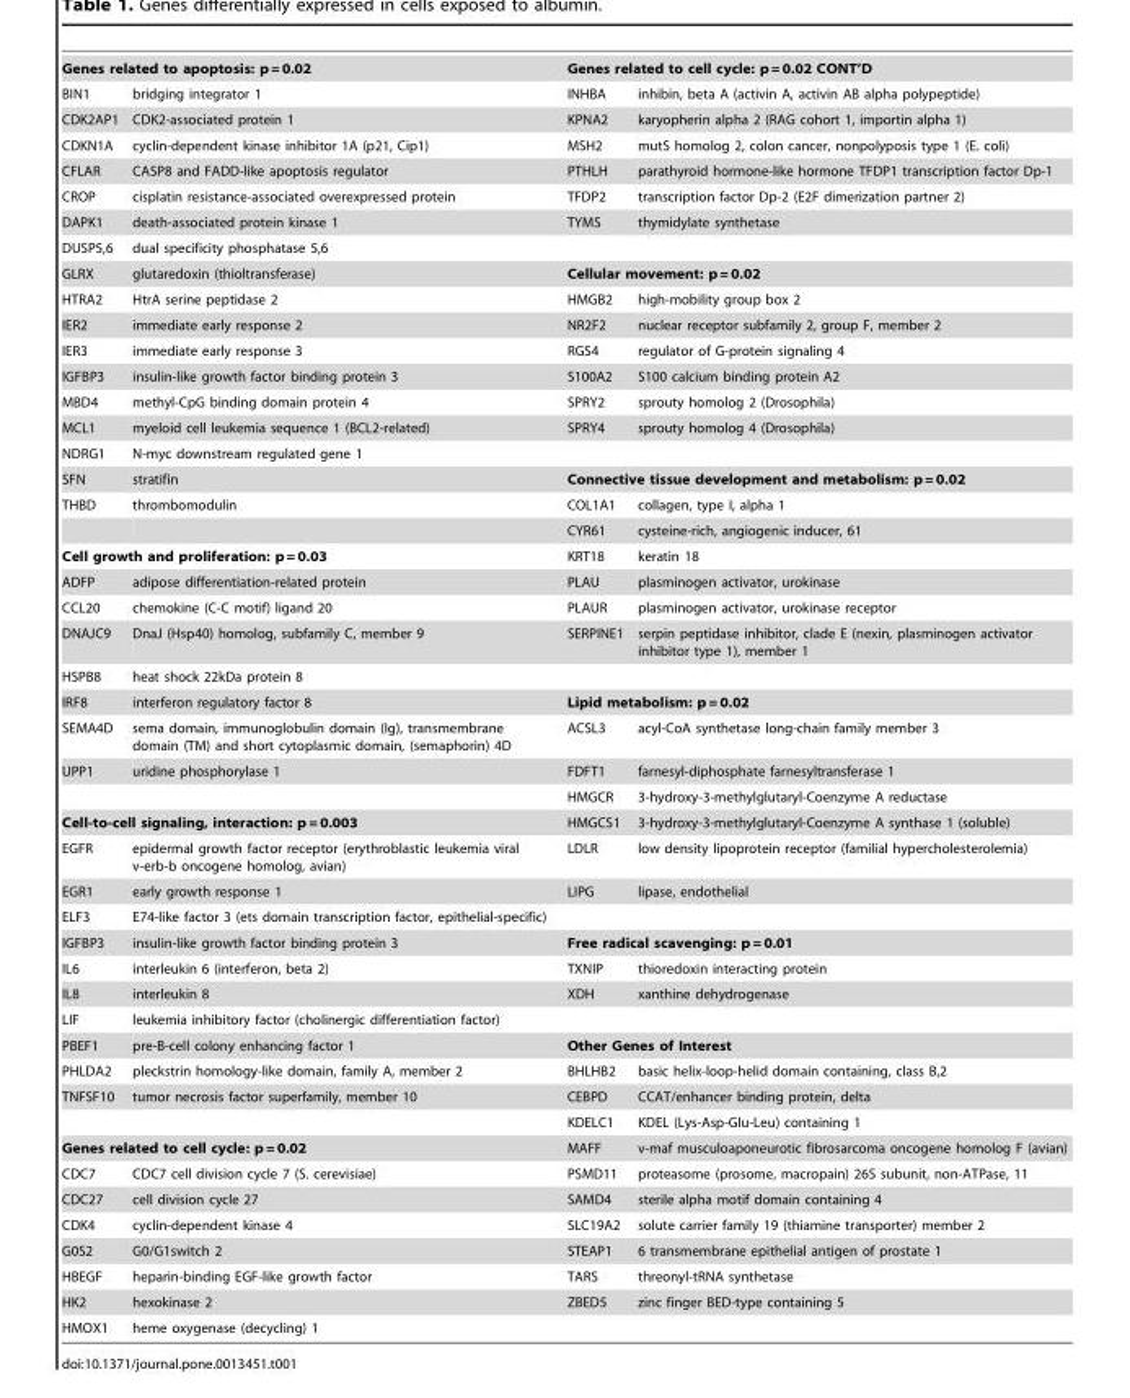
<table><tbody><tr><td colspan="2">Genes related to apoptosis: p = 0.02</td><td colspan="2">Genes related to cell cycle: p = 0.02 CONT’D</td></tr><tr><td>BIN1</td><td>bridging integrator 1</td><td>INHBA</td><td>inhibin, beta A (activin A, activin AB alpha polypeptide)</td></tr><tr><td>CDK2AP1</td><td>CDK2-associated protein 1</td><td>KPNA2</td><td>karyopherin alpha 2 (RAG cohort 1, importin alpha 1)</td></tr><tr><td>CDKN1A</td><td>cyclin-dependent kinase inhibitor 1A (p21, Cip1)</td><td>MSH2</td><td>mutS homolog 2, colon cancer, nonpolyposis type 1 (E. coli)</td></tr><tr><td>CFLAR</td><td>CASP8 and FADD-like apoptosis regulator</td><td>PTHLH</td><td>parathyroid hormone-like hormone TFDP1 transcription factor Dp-1</td></tr><tr><td>CROP</td><td>cisplatin resistance-associated overexpressed protein</td><td>TFDP2</td><td>transcription factor Dp-2 (E2F dimerization partner 2)</td></tr><tr><td>DAPK1</td><td>death-associated protein kinase 1</td><td>TYMS</td><td>thymidylate synthetase</td></tr><tr><td>DUSP5,6</td><td>dual specificity phosphatase 5,6</td><td></td><td></td></tr><tr><td>GLRX</td><td>glutaredoxin (thioltransferase)</td><td colspan="2">Cellular movement: p = 0.02</td></tr><tr><td>HTRA2</td><td>HtrA serine peptidase 2</td><td>HMGB2</td><td>high-mobility group box 2</td></tr><tr><td>IER2</td><td>immediate early response 2</td><td>NR2F2</td><td>nuclear receptor subfamily 2, group F, member 2</td></tr><tr><td>IER3</td><td>immediate early response 3</td><td>RGS4</td><td>regulator of G-protein signaling 4</td></tr><tr><td>IGFBP3</td><td>insulin-like growth factor binding protein 3</td><td>S100A2</td><td>S100 calcium binding protein A2</td></tr><tr><td>MBD4</td><td>methyl-CpG binding domain protein 4</td><td>SPRY2</td><td>sprouty homolog 2 (Drosophila)</td></tr><tr><td>MCL1</td><td>myeloid cell leukemia sequence 1 (BCL2-related)</td><td>SPRY4</td><td>sprouty homolog 4 (Drosophila)</td></tr><tr><td>NDRG1</td><td>N-myc downstream regulated gene 1</td><td></td><td></td></tr><tr><td>SFN</td><td>stratifin</td><td colspan="2">Connective tissue development and metabolism: p = 0.02</td></tr><tr><td rowspan="2">THBD</td><td>thrombomodulin</td><td>COL1A1</td><td>collagen, type I, alpha 1</td></tr><tr><td></td><td>CYR61</td><td>cysteine-rich, angiogenic inducer, 61</td></tr><tr><td colspan="2">Cell growth and proliferation: p = 0.03</td><td>KRT18</td><td>keratin 18</td></tr><tr><td>ADFP</td><td>adipose differentiation-related protein</td><td>PLAU</td><td>plasminogen activator, urokinase</td></tr><tr><td>CCL20</td><td>chemokine (C-C motif) ligand 20</td><td>PLAUR</td><td>plasminogen activator, urokinase receptor</td></tr><tr><td>DNAJC9</td><td>DnaJ (Hsp40) homolog, subfamily C, member 9</td><td>SERPINE1</td><td>serpin peptidase inhibitor, clade E (nexin, plasminogen activator inhibitor type 1), member 1</td></tr><tr><td>HSPB8</td><td>heat shock 22kDa protein 8</td><td></td><td></td></tr><tr><td>IRF8</td><td>interferon regulatory factor 8</td><td colspan="2">Lipid metabolism: p = 0.02</td></tr><tr><td>SEMA4D</td><td>sema domain, immunoglobulin domain (Ig), transmembrane domain (TM) and short cytoplasmic domain, (semaphorin) 4D</td><td>ACSL3</td><td>acyl-CoA synthetase long-chain family member 3</td></tr><tr><td rowspan="2">UPP1</td><td>uridine phosphorylase 1</td><td>FDFT1</td><td>farnesyl-diphosphate farnesyltransferase 1</td></tr><tr><td></td><td>HMGCR</td><td>3-hydroxy-3-methylglutaryl-Coenzyme A reductase</td></tr><tr><td colspan="2">Cell-to-cell signaling, interaction: p = 0.003</td><td>HMGCS1</td><td>3-hydroxy-3-methylglutaryl-Coenzyme A synthase 1 (soluble)</td></tr><tr><td>EGFR</td><td>epidermal growth factor receptor (erythroblastic leukemia viral v-erb-b oncogene homolog, avian)</td><td>LDLR</td><td>low density lipoprotein receptor (familial hypercholesterolemia)</td></tr><tr><td>EGR1</td><td>early growth response 1</td><td>LIPG</td><td>lipase, endothelial</td></tr><tr><td>ELF3</td><td>E74-like factor 3 (ets domain transcription factor, epithelial-specific)</td><td></td><td></td></tr><tr><td>IGFBP3</td><td>insulin-like growth factor binding protein 3</td><td colspan="2">Free radical scavenging: p = 0.01</td></tr><tr><td>IL6</td><td>interleukin 6 (interferon, beta 2)</td><td>TXNIP</td><td>thioredoxin interacting protein</td></tr><tr><td>IL8</td><td>interleukin 8</td><td>XDH</td><td>xanthine dehydrogenase</td></tr><tr><td>LIF</td><td>leukemia inhibitory factor (cholinergic differentiation factor)</td><td></td><td></td></tr><tr><td>PBEF1</td><td>pre-B-cell colony enhancing factor 1</td><td colspan="2">Other Genes of Interest</td></tr><tr><td>PHLDA2</td><td>pleckstrin homology-like domain, family A, member 2</td><td>BHLHB2</td><td>basic helix-loop-helid domain containing, class B,2</td></tr><tr><td rowspan="2">TNFSF10</td><td>tumor necrosis factor superfamily, member 10</td><td>CEBPD</td><td>CCAT/enhancer binding protein, delta</td></tr><tr><td></td><td>KDELC1</td><td>KDEL (Lys-Asp-Glu-Leu) containing 1</td></tr><tr><td colspan="2">Genes related to cell cycle: p = 0.02</td><td>MAFF</td><td>v-maf musculoaponeurotic fibrosarcoma oncogene homolog F (avian)</td></tr><tr><td>CDC7</td><td>CDC7 cell division cycle 7 (S. cerevisiae)</td><td>PSMD11</td><td>proteasome (prosome, macropain) 26S subunit, non-ATPase, 11</td></tr><tr><td>CDC27</td><td>cell division cycle 27</td><td>SAMD4</td><td>sterile alpha motif domain containing 4</td></tr><tr><td>CDK4</td><td>cyclin-dependent kinase 4</td><td>SLC19A2</td><td>solute carrier family 19 (thiamine transporter) member 2</td></tr><tr><td>G0S2</td><td>G0/G1switch 2</td><td>STEAP1</td><td>6 transmembrane epithelial antigen of prostate 1</td></tr><tr><td>HBEGF</td><td>heparin-binding EGF-like growth factor</td><td>TARS</td><td>threonyl-tRNA synthetase</td></tr><tr><td>HK2</td><td>hexokinase 2</td><td>ZBED5</td><td>zinc finger BED-type containing 5</td></tr><tr><td>HMOX1</td><td>heme oxygenase (decycling) 1</td><td></td><td></td></tr></tbody></table>